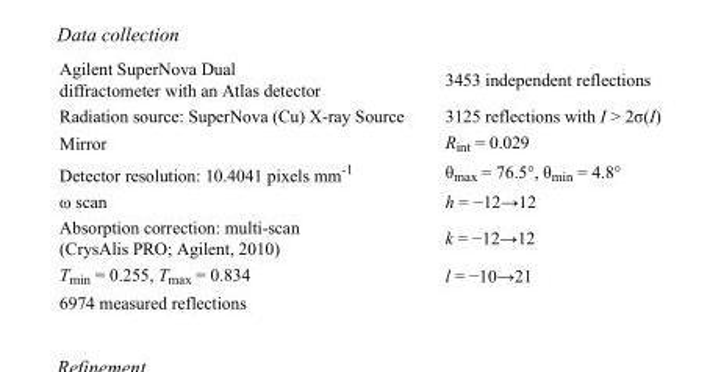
<table><tbody><tr><td>Agilent SuperNova Dual diffractometer with an Atlas detector</td><td>3453 independent reflections</td></tr><tr><td>Radiation source: SuperNova (Cu) X-ray Source</td><td>3125 reflections with I &gt; 2σ(I)</td></tr><tr><td>Mirror</td><td>R<sub>int</sub> = 0.029</td></tr><tr><td>Detector resolution: 10.4041 pixels mm<sup>-1</sup></td><td>θ<sub>max</sub> = 76.5°, θ<sub>min</sub> = 4.8°</td></tr><tr><td>ω scan</td><td>h = −12→12</td></tr><tr><td>Absorption correction: multi-scan (CrysAlis PRO; Agilent, 2010)</td><td>k = −12→12</td></tr><tr><td>T<sub>min</sub> = 0.255, T<sub>max</sub> = 0.834</td><td>l = −10→21</td></tr><tr><td>6974 measured reflections</td><td></td></tr></tbody></table>